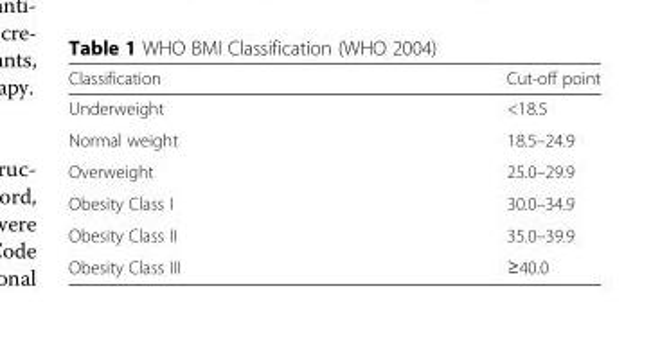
<table><thead><tr><td>Classification</td><td>Cut-off point</td></tr></thead><tbody><tr><td>Underweight</td><td>&lt;18.5</td></tr><tr><td>Normal weight</td><td>18.5–24.9</td></tr><tr><td>Overweight</td><td>25.0–29.9</td></tr><tr><td>Obesity Class I</td><td>30.0–34.9</td></tr><tr><td>Obesity Class II</td><td>35.0–39.9</td></tr><tr><td>Obesity Class III</td><td>≥40.0</td></tr></tbody></table>